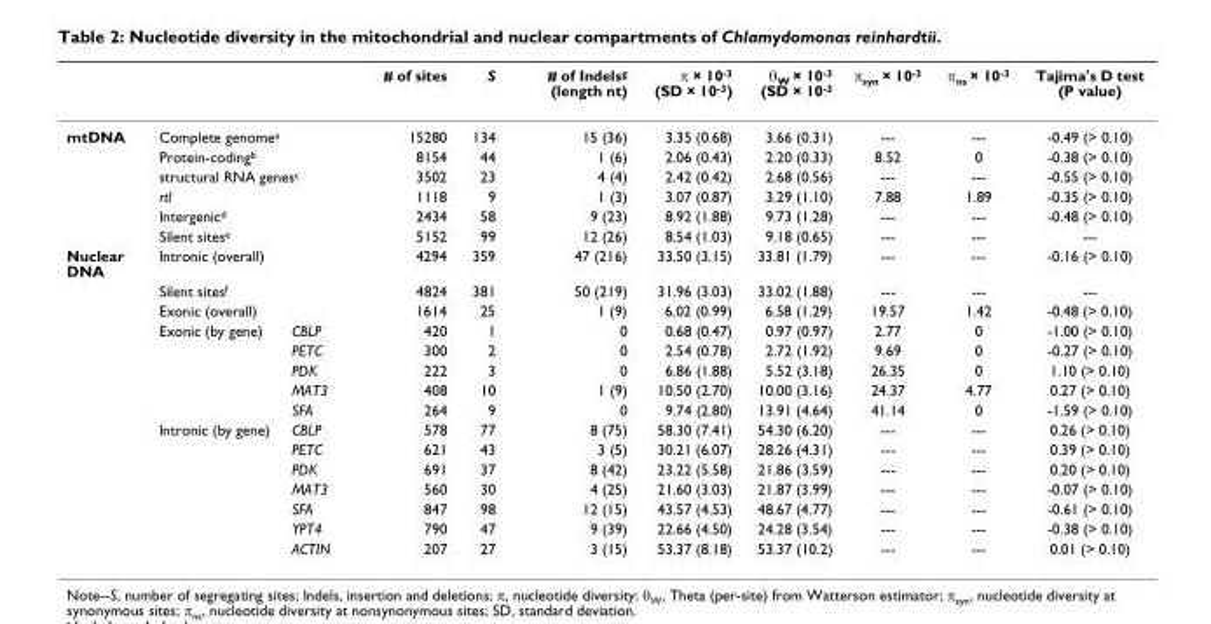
<table><thead><tr><td></td><td></td><td></td><td># of sites</td><td>S</td><td># of Indels<sup>g</sup> (length nt)</td><td>π × 10<sup>-3</sup> (SD × 10<sup>-3</sup>)</td><td>θ<sub>W</sub> × 10<sup>-3</sup> (SD × 10<sup>-3</sup></td><td>π<sub>syn</sub> × 10<sup>-3</sup></td><td>π<sub>ns</sub> × 10<sup>-3</sup></td><td>Tajima&#x27;s D test (P value)</td></tr></thead><tbody><tr><td rowspan="6">mtDNA</td><td colspan="2">Complete genome<sup>a</sup></td><td>15280</td><td>134</td><td>15 (36)</td><td>3.35 (0.68)</td><td>3.66 (0.31)</td><td>---</td><td>---</td><td>-0.49 (&gt; 0.10)</td></tr><tr><td colspan="2">Protein-coding<sup>b</sup></td><td>8154</td><td>44</td><td>1 (6)</td><td>2.06 (0.43)</td><td>2.20 (0.33)</td><td>8.52</td><td>0</td><td>-0.38 (&gt; 0.10)</td></tr><tr><td colspan="2">structural RNA genes<sup>c</sup></td><td>3502</td><td>23</td><td>4 (4)</td><td>2.42 (0.42)</td><td>2.68 (0.56)</td><td>---</td><td>---</td><td>-0.55 (&gt; 0.10)</td></tr><tr><td colspan="2">rtl</td><td>1118</td><td>9</td><td>1 (3)</td><td>3.07 (0.87)</td><td>3.29 (1.10)</td><td>7.88</td><td>1.89</td><td>-0.35 (&gt; 0.10)</td></tr><tr><td colspan="2">Intergenic<sup>d</sup></td><td>2434</td><td>58</td><td>9 (23)</td><td>8.92 (1.88)</td><td>9.73 (1.28)</td><td>---</td><td>---</td><td>-0.48 (&gt; 0.10)</td></tr><tr><td colspan="2">Silent sites<sup>e</sup></td><td>5152</td><td>99</td><td>12 (26)</td><td>8.54 (1.03)</td><td>9.18 (0.65)</td><td>---</td><td>---</td><td>---</td></tr><tr><td rowspan="15">Nuclear DNA</td><td colspan="2">Intronic (overall)</td><td>4294</td><td>359</td><td>47 (216)</td><td>33.50 (3.15)</td><td>33.81 (1.79)</td><td>---</td><td>---</td><td>-0.16 (&gt; 0.10)</td></tr><tr><td colspan="2">Silent sites<sup>f</sup></td><td>4824</td><td>381</td><td>50 (219)</td><td>31.96 (3.03)</td><td>33.02 (1.88)</td><td>---</td><td>---</td><td>---</td></tr><tr><td colspan="2">Exonic (overall)</td><td>1614</td><td>25</td><td>1 (9)</td><td>6.02 (0.99)</td><td>6.58 (1.29)</td><td>19.57</td><td>1.42</td><td>-0.48 (&gt; 0.10)</td></tr><tr><td>Exonic (by gene)</td><td>CBLP</td><td>420</td><td>1</td><td>0</td><td>0.68 (0.47)</td><td>0.97 (0.97)</td><td>2.77</td><td>0</td><td>-1.00 (&gt; 0.10)</td></tr><tr><td></td><td>PETC</td><td>300</td><td>2</td><td>0</td><td>2.54 (0.78)</td><td>2.72 (1.92)</td><td>9.69</td><td>0</td><td>-0.27 (&gt; 0.10)</td></tr><tr><td></td><td>PDK</td><td>222</td><td>3</td><td>0</td><td>6.86 (1.88)</td><td>5.52 (3.18)</td><td>26.35</td><td>0</td><td>1.10 (&gt; 0.10)</td></tr><tr><td></td><td>MAT3</td><td>408</td><td>10</td><td>1 (9)</td><td>10.50 (2.70)</td><td>10.00 (3.16)</td><td>24.37</td><td>4.77</td><td>0.27 (&gt; 0.10)</td></tr><tr><td></td><td>SFA</td><td>264</td><td>9</td><td>0</td><td>9.74 (2.80)</td><td>13.91 (4.64)</td><td>41.14</td><td>0</td><td>-1.59 (&gt; 0.10)</td></tr><tr><td>Intronic (by gene)</td><td>CBLP</td><td>578</td><td>77</td><td>8 (75)</td><td>58.30 (7.41)</td><td>54.30 (6.20)</td><td>---</td><td>---</td><td>0.26 (&gt; 0.10)</td></tr><tr><td></td><td>PETC</td><td>621</td><td>43</td><td>3 (5)</td><td>30.21 (6.07)</td><td>28.26 (4.31)</td><td>---</td><td>---</td><td>0.39 (&gt; 0.10)</td></tr><tr><td></td><td>PDK</td><td>691</td><td>37</td><td>8 (42)</td><td>23.22 (5.58)</td><td>21.86 (3.59)</td><td>---</td><td>---</td><td>0.20 (&gt; 0.10)</td></tr><tr><td></td><td>MAT3</td><td>560</td><td>30</td><td>4 (25)</td><td>21.60 (3.03)</td><td>21.87 (3.99)</td><td>---</td><td>---</td><td>-0.07 (&gt; 0.10)</td></tr><tr><td></td><td>SFA</td><td>847</td><td>98</td><td>12 (15)</td><td>43.57 (4.53)</td><td>48.67 (4.77)</td><td>---</td><td>---</td><td>-0.61 (&gt; 0.10)</td></tr><tr><td></td><td>YPT4</td><td>790</td><td>47</td><td>9 (39)</td><td>22.66 (4.50)</td><td>24.28 (3.54)</td><td>---</td><td>---</td><td>-0.38 (&gt; 0.10)</td></tr><tr><td></td><td>ACTIN</td><td>207</td><td>27</td><td>3 (15)</td><td>53.37 (8.18)</td><td>53.37 (10.2)</td><td>---</td><td>---</td><td>0.01 (&gt; 0.10)</td></tr></tbody></table>